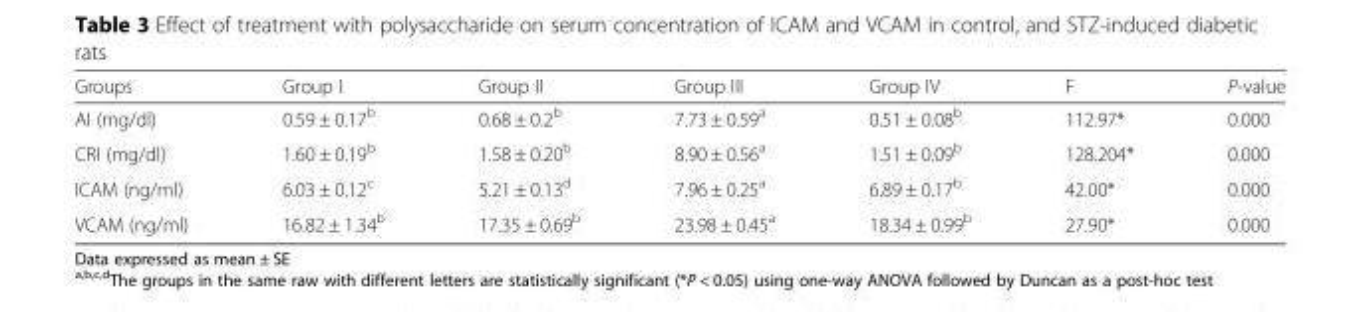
<table><thead><tr><td>Groups</td><td>Group I</td><td>Group II</td><td>Group III</td><td>Group IV</td><td>F</td><td>P-value</td></tr></thead><tbody><tr><td>AI (mg/dl)</td><td>0.59 ± 0.17<sup>b</sup></td><td>0.68 ± 0.2<sup>b</sup></td><td>7.73 ± 0.59<sup>a</sup></td><td>0.51 ± 0.08<sup>b</sup></td><td>112.97*</td><td>0.000</td></tr><tr><td>CRI (mg/dl)</td><td>1.60 ± 0.19<sup>b</sup></td><td>1.58 ± 0.20<sup>b</sup></td><td>8.90 ± 0.56<sup>a</sup></td><td>1.51 ± 0.09<sup>b</sup></td><td>128.204*</td><td>0.000</td></tr><tr><td>ICAM (ng/ml)</td><td>6.03 ± 0.12<sup>c</sup></td><td>5.21 ± 0.13<sup>d</sup></td><td>7.96 ± 0.25<sup>a</sup></td><td>6.89 ± 0.17<sup>b</sup></td><td>42.00*</td><td>0.000</td></tr><tr><td>VCAM (ng/ml)</td><td>16.82 ± 1.34<sup>b</sup></td><td>17.35 ± 0.69<sup>b</sup></td><td>23.98 ± 0.45<sup>a</sup></td><td>18.34 ± 0.99<sup>b</sup></td><td>27.90*</td><td>0.000</td></tr></tbody></table>